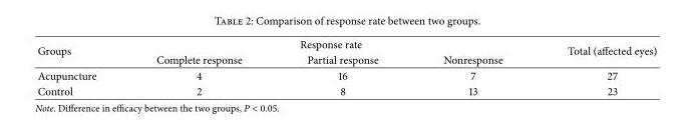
<table><thead><tr><td rowspan="2">Groups</td><td colspan="3">Response rate</td><td rowspan="2">Total (affected eyes)</td></tr><tr><td>Complete response</td><td>Partial response</td><td>Nonresponse</td></tr></thead><tbody><tr><td>Acupuncture</td><td>4</td><td>16</td><td>7</td><td>27</td></tr><tr><td>Control</td><td>2</td><td>8</td><td>13</td><td>23</td></tr></tbody></table>